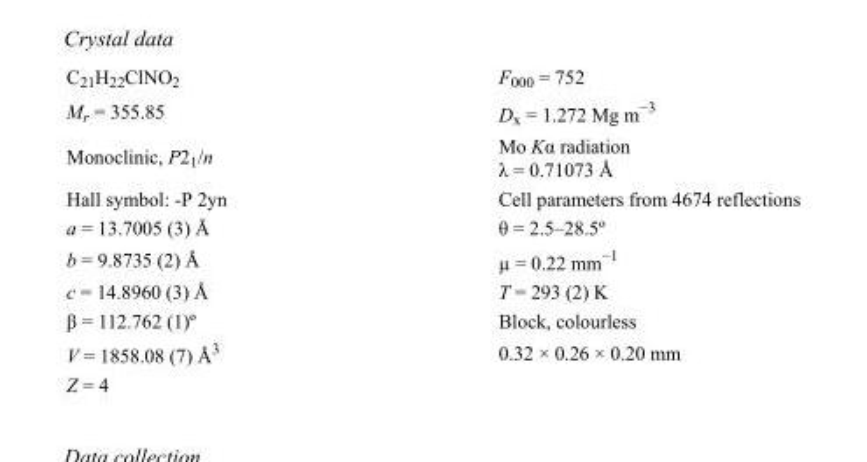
<table><tbody><tr><td>C<sub>21</sub>H<sub>22</sub>ClNO<sub>2</sub></td><td>F000 = 752</td></tr><tr><td>M<sub>r</sub> = 355.85</td><td>D<sub>x</sub> = 1.272 Mg m<sup>−3</sup></td></tr><tr><td>Monoclinic, P2<sub>1</sub>/n</td><td>Mo Kα radiation λ = 0.71073 Å</td></tr><tr><td>Hall symbol: -P 2yn</td><td>Cell parameters from 4674 reflections</td></tr><tr><td>a = 13.7005 (3) Å</td><td>θ = 2.5–28.5º</td></tr><tr><td>b = 9.8735 (2) Å</td><td>µ = 0.22 mm<sup>−1</sup></td></tr><tr><td>c = 14.8960 (3) Å</td><td>T = 293 (2) K</td></tr><tr><td>β = 112.762 (1)º</td><td>Block, colourless</td></tr><tr><td>V = 1858.08 (7) Å<sup>3</sup></td><td>0.32 × 0.26 × 0.20 mm</td></tr><tr><td>Z = 4</td><td></td></tr></tbody></table>